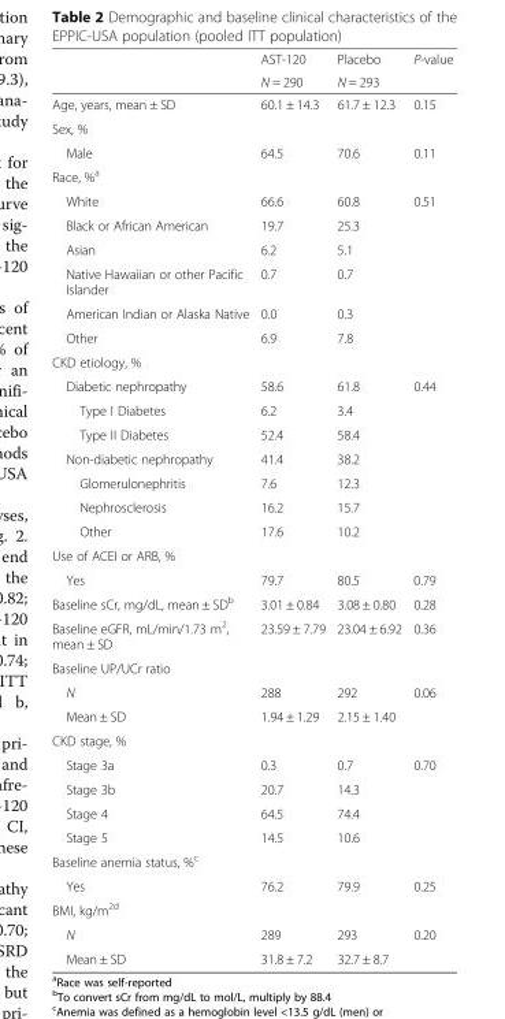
<table><thead><tr><td rowspan="2"></td><td rowspan="2">AST-120 N = 290</td><td rowspan="2">Placebo N = 293</td><td rowspan="2">P-value</td></tr><tr></tr></thead><tbody><tr><td>Age, years, mean ± SD</td><td>60.1 ± 14.3</td><td>61.7 ± 12.3</td><td>0.15</td></tr><tr><td colspan="4">Sex, %</td></tr><tr><td>Male</td><td>64.5</td><td>70.6</td><td>0.11</td></tr><tr><td colspan="4">Race, %<sup>a</sup></td></tr><tr><td>White</td><td>66.6</td><td>60.8</td><td>0.51</td></tr><tr><td>Black or African American</td><td>19.7</td><td>25.3</td><td></td></tr><tr><td>Asian</td><td>6.2</td><td>5.1</td><td></td></tr><tr><td>Native Hawaiian or other Pacific Islander</td><td>0.7</td><td>0.7</td><td></td></tr><tr><td>American Indian or Alaska Native</td><td>0.0</td><td>0.3</td><td></td></tr><tr><td>Other</td><td>6.9</td><td>7.8</td><td></td></tr><tr><td colspan="4">CKD etiology, %</td></tr><tr><td>Diabetic nephropathy</td><td>58.6</td><td>61.8</td><td>0.44</td></tr><tr><td>Type I Diabetes</td><td>6.2</td><td>3.4</td><td></td></tr><tr><td>Type II Diabetes</td><td>52.4</td><td>58.4</td><td></td></tr><tr><td>Non-diabetic nephropathy</td><td>41.4</td><td>38.2</td><td></td></tr><tr><td>Glomerulonephritis</td><td>7.6</td><td>12.3</td><td></td></tr><tr><td>Nephrosclerosis</td><td>16.2</td><td>15.7</td><td></td></tr><tr><td>Other</td><td>17.6</td><td>10.2</td><td></td></tr><tr><td colspan="4">Use of ACEI or ARB, %</td></tr><tr><td>Yes</td><td>79.7</td><td>80.5</td><td>0.79</td></tr><tr><td>Baseline sCr, mg/dL, mean ± SD<sup>b</sup></td><td>3.01 ± 0.84</td><td>3.08 ± 0.80</td><td>0.28</td></tr><tr><td>Baseline eGFR, mL/min/1.73 m<sup>2</sup>, mean ± SD</td><td>23.59 ± 7.79</td><td>23.04 ± 6.92</td><td>0.36</td></tr><tr><td colspan="4">Baseline UP/UCr ratio</td></tr><tr><td>N</td><td>288</td><td>292</td><td>0.06</td></tr><tr><td>Mean ± SD</td><td>1.94 ± 1.29</td><td>2.15 ± 1.40</td><td></td></tr><tr><td colspan="4">CKD stage, %</td></tr><tr><td>Stage 3a</td><td>0.3</td><td>0.7</td><td>0.70</td></tr><tr><td>Stage 3b</td><td>20.7</td><td>14.3</td><td></td></tr><tr><td>Stage 4</td><td>64.5</td><td>74.4</td><td></td></tr><tr><td>Stage 5</td><td>14.5</td><td>10.6</td><td></td></tr><tr><td colspan="4">Baseline anemia status, %<sup>c</sup></td></tr><tr><td>Yes</td><td>76.2</td><td>79.9</td><td>0.25</td></tr><tr><td colspan="4">BMI, kg/m<sup>2d</sup></td></tr><tr><td>N</td><td>289</td><td>293</td><td>0.20</td></tr><tr><td>Mean ± SD</td><td>31.8 ± 7.2</td><td>32.7 ± 8.7</td><td></td></tr></tbody></table>